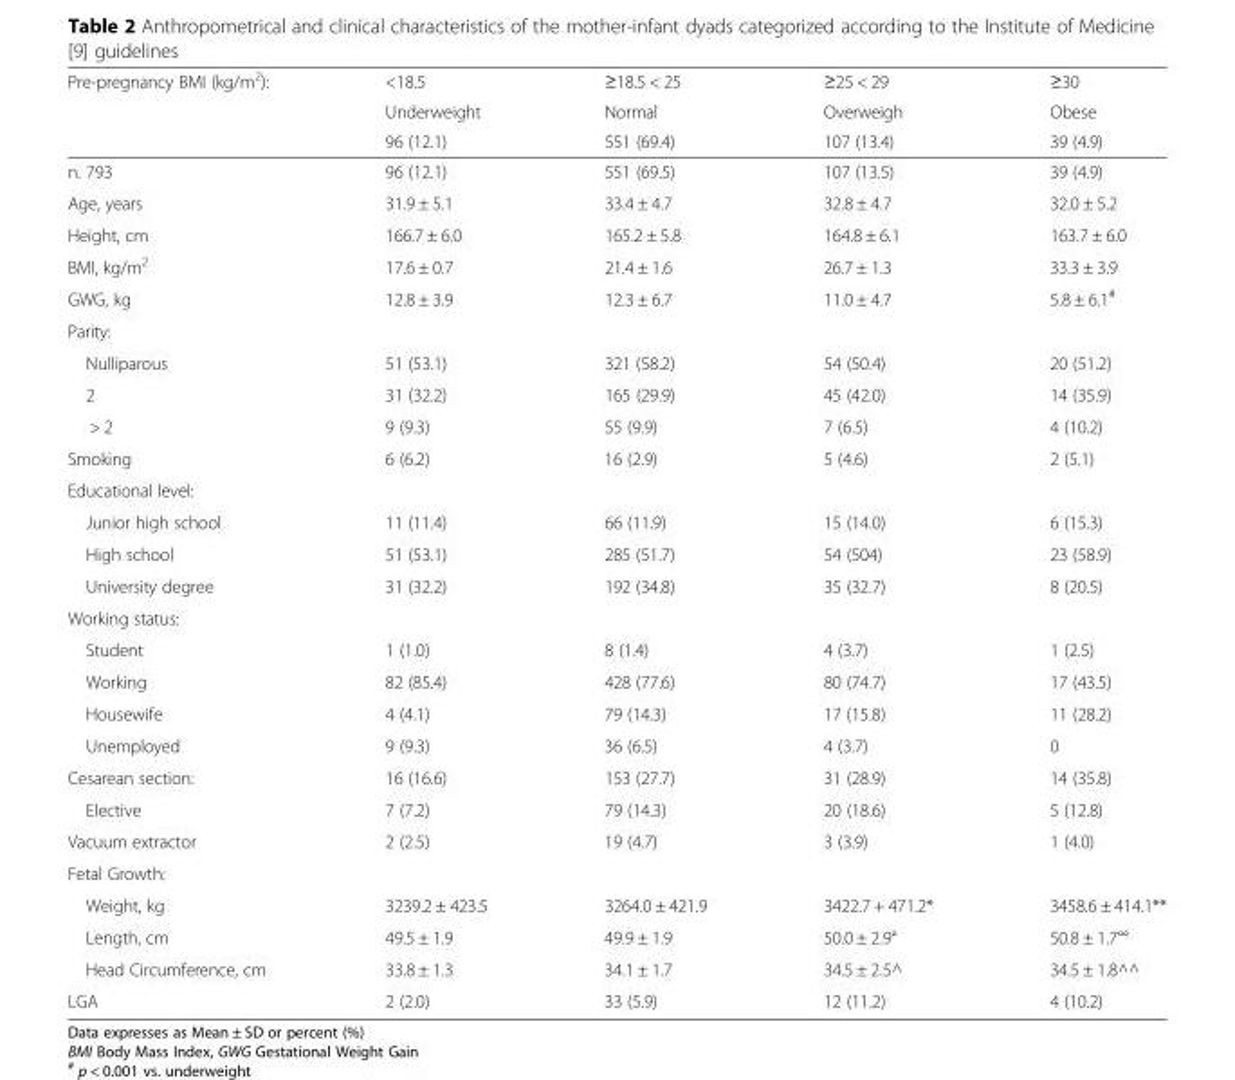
<table><thead><tr><td rowspan="3">Pre-pregnancy BMI (kg/m<sup>2</sup>):</td><td rowspan="3">&lt;18.5 Underweight 96 (12.1)</td><td rowspan="3">≥18.5 &lt; 25 Normal 551 (69.4)</td><td rowspan="3">≥25 &lt; 29 Overweigh 107 (13.4)</td><td rowspan="3">≥30 Obese 39 (4.9)</td></tr><tr></tr><tr></tr></thead><tbody><tr><td>n. 793</td><td>96 (12.1)</td><td>551 (69.5)</td><td>107 (13.5)</td><td>39 (4.9)</td></tr><tr><td>Age, years</td><td>31.9 ± 5.1</td><td>33.4 ± 4.7</td><td>32.8 ± 4.7</td><td>32.0 ± 5.2</td></tr><tr><td>Height, cm</td><td>166.7 ± 6.0</td><td>165.2 ± 5.8</td><td>164.8 ± 6.1</td><td>163.7 ± 6.0</td></tr><tr><td>BMI, kg/m<sup>2</sup></td><td>17.6 ± 0.7</td><td>21.4 ± 1.6</td><td>26.7 ± 1.3</td><td>33.3 ± 3.9</td></tr><tr><td>GWG, kg</td><td>12.8 ± 3.9</td><td>12.3 ± 6.7</td><td>11.0 ± 4.7</td><td>5.8 ± 6.1<sup>#</sup></td></tr><tr><td colspan="5">Parity:</td></tr><tr><td>Nulliparous</td><td>51 (53.1)</td><td>321 (58.2)</td><td>54 (50.4)</td><td>20 (51.2)</td></tr><tr><td>2</td><td>31 (32.2)</td><td>165 (29.9)</td><td>45 (42.0)</td><td>14 (35.9)</td></tr><tr><td>&gt; 2</td><td>9 (9.3)</td><td>55 (9.9)</td><td>7 (6.5)</td><td>4 (10.2)</td></tr><tr><td>Smoking</td><td>6 (6.2)</td><td>16 (2.9)</td><td>5 (4.6)</td><td>2 (5.1)</td></tr><tr><td colspan="5">Educational level:</td></tr><tr><td>Junior high school</td><td>11 (11.4)</td><td>66 (11.9)</td><td>15 (14.0)</td><td>6 (15.3)</td></tr><tr><td>High school</td><td>51 (53.1)</td><td>285 (51.7)</td><td>54 (504)</td><td>23 (58.9)</td></tr><tr><td>University degree</td><td>31 (32.2)</td><td>192 (34.8)</td><td>35 (32.7)</td><td>8 (20.5)</td></tr><tr><td colspan="5">Working status:</td></tr><tr><td>Student</td><td>1 (1.0)</td><td>8 (1.4)</td><td>4 (3.7)</td><td>1 (2.5)</td></tr><tr><td>Working</td><td>82 (85.4)</td><td>428 (77.6)</td><td>80 (74.7)</td><td>17 (43.5)</td></tr><tr><td>Housewife</td><td>4 (4.1)</td><td>79 (14.3)</td><td>17 (15.8)</td><td>11 (28.2)</td></tr><tr><td>Unemployed</td><td>9 (9.3)</td><td>36 (6.5)</td><td>4 (3.7)</td><td>0</td></tr><tr><td>Cesarean section:</td><td>16 (16.6)</td><td>153 (27.7)</td><td>31 (28.9)</td><td>14 (35.8)</td></tr><tr><td>Elective</td><td>7 (7.2)</td><td>79 (14.3)</td><td>20 (18.6)</td><td>5 (12.8)</td></tr><tr><td>Vacuum extractor</td><td>2 (2.5)</td><td>19 (4.7)</td><td>3 (3.9)</td><td>1 (4.0)</td></tr><tr><td colspan="5">Fetal Growth:</td></tr><tr><td>Weight, kg</td><td>3239.2 ± 423.5</td><td>3264.0 ± 421.9</td><td>3422.7 + 471.2*</td><td>3458.6 ± 414.1**</td></tr><tr><td>Length, cm</td><td>49.5 ± 1.9</td><td>49.9 ± 1.9</td><td>50.0 ± 2.9°</td><td>50.8 ± 1.7°°</td></tr><tr><td>Head Circumference, cm</td><td>33.8 ± 1.3</td><td>34.1 ± 1.7</td><td>34.5 ± 2.5^</td><td>34.5 ± 1.8^^</td></tr><tr><td>LGA</td><td>2 (2.0)</td><td>33 (5.9)</td><td>12 (11.2)</td><td>4 (10.2)</td></tr></tbody></table>